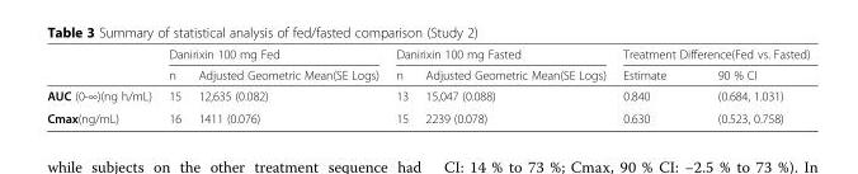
<table><thead><tr><td rowspan="2"></td><td colspan="2">Danirixin 100 mg Fed</td><td colspan="2">Danirixin 100 mg Fasted</td><td colspan="2">Treatment Difference(Fed vs. Fasted)</td></tr><tr><td>n</td><td>Adjusted Geometric Mean(SE Logs)</td><td>n</td><td>Adjusted Geometric Mean(SE Logs)</td><td>Estimate</td><td>90 % CI</td></tr></thead><tbody><tr><td>AUC (0-∞)(ng h/mL)</td><td>15</td><td>12,635 (0.082)</td><td>13</td><td>15,047 (0.088)</td><td>0.840</td><td>(0.684, 1.031)</td></tr><tr><td>Cmax(ng/mL)</td><td>16</td><td>1411 (0.076)</td><td>15</td><td>2239 (0.078)</td><td>0.630</td><td>(0.523, 0.758)</td></tr></tbody></table>